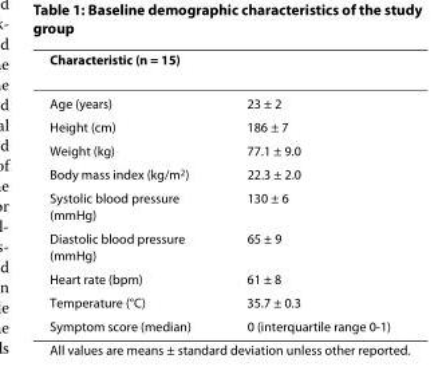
<table><thead><tr><td>Characteristic (n = 15)</td><td></td></tr></thead><tbody><tr><td>Age (years)</td><td>23 ± 2</td></tr><tr><td>Height (cm)</td><td>186 ± 7</td></tr><tr><td>Weight (kg)</td><td>77.1 ± 9.0</td></tr><tr><td>Body mass index (kg/m<sup>2</sup>)</td><td>22.3 ± 2.0</td></tr><tr><td>Systolic blood pressure (mmHg)</td><td>130 ± 6</td></tr><tr><td>Diastolic blood pressure (mmHg)</td><td>65 ± 9</td></tr><tr><td>Heart rate (bpm)</td><td>61 ± 8</td></tr><tr><td>Temperature (°C)</td><td>35.7 ± 0.3</td></tr><tr><td>Symptom score (median)</td><td>0 (interquartile range 0-1)</td></tr></tbody></table>